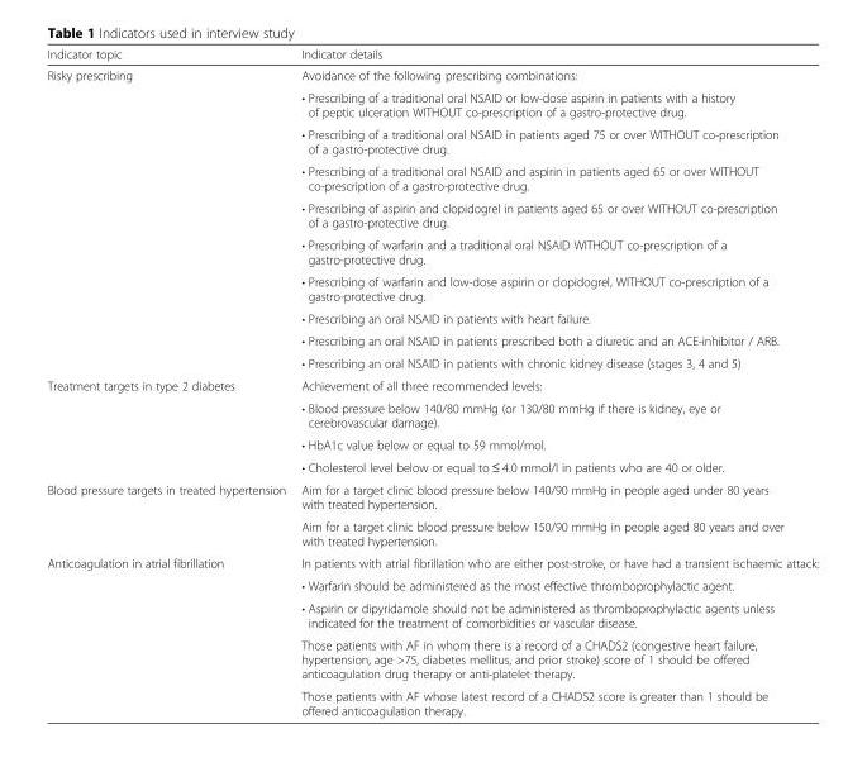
<table><thead><tr><td>Indicator topic</td><td>Indicator details</td></tr></thead><tbody><tr><td rowspan="10">Risky prescribing</td><td>Avoidance of the following prescribing combinations:</td></tr><tr><td>• Prescribing of a traditional oral NSAID or low-dose aspirin in patients with a history of peptic ulceration WITHOUT co-prescription of a gastro-protective drug.</td></tr><tr><td>• Prescribing of a traditional oral NSAID in patients aged 75 or over WITHOUT co-prescription of a gastro-protective drug.</td></tr><tr><td>• Prescribing of a traditional oral NSAID and aspirin in patients aged 65 or over WITHOUT co-prescription of a gastro-protective drug.</td></tr><tr><td>• Prescribing of aspirin and clopidogrel in patients aged 65 or over WITHOUT co-prescription of a gastro-protective drug.</td></tr><tr><td>• Prescribing of warfarin and a traditional oral NSAID WITHOUT co-prescription of a gastro-protective drug.</td></tr><tr><td>• Prescribing of warfarin and low-dose aspirin or clopidogrel, WITHOUT co-prescription of a gastro-protective drug.</td></tr><tr><td>• Prescribing an oral NSAID in patients with heart failure.</td></tr><tr><td>• Prescribing an oral NSAID in patients prescribed both a diuretic and an ACE-inhibitor / ARB.</td></tr><tr><td>• Prescribing an oral NSAID in patients with chronic kidney disease (stages 3, 4 and 5)</td></tr><tr><td rowspan="4">Treatment targets in type 2 diabetes</td><td>Achievement of all three recommended levels:</td></tr><tr><td>• Blood pressure below 140/80 mmHg (or 130/80 mmHg if there is kidney, eye or cerebrovascular damage).</td></tr><tr><td>• HbA1c value below or equal to 59 mmol/mol.</td></tr><tr><td>• Cholesterol level below or equal to ≤ 4.0 mmol/l in patients who are 40 or older.</td></tr><tr><td rowspan="2">Blood pressure targets in treated hypertension</td><td>Aim for a target clinic blood pressure below 140/90 mmHg in people aged under 80 years with treated hypertension.</td></tr><tr><td>Aim for a target clinic blood pressure below 150/90 mmHg in people aged 80 years and over with treated hypertension.</td></tr><tr><td rowspan="5">Anticoagulation in atrial fibrillation</td><td>In patients with atrial fibrillation who are either post-stroke, or have had a transient ischaemic attack:</td></tr><tr><td>• Warfarin should be administered as the most effective thromboprophylactic agent.</td></tr><tr><td>• Aspirin or dipyridamole should not be administered as thromboprophylactic agents unless indicated for the treatment of comorbidities or vascular disease.</td></tr><tr><td>Those patients with AF in whom there is a record of a CHADS2 (congestive heart failure, hypertension, age &gt;75, diabetes mellitus, and prior stroke) score of 1 should be offered anticoagulation drug therapy or anti-platelet therapy.</td></tr><tr><td>Those patients with AF whose latest record of a CHADS2 score is greater than 1 should be offered anticoagulation therapy.</td></tr></tbody></table>